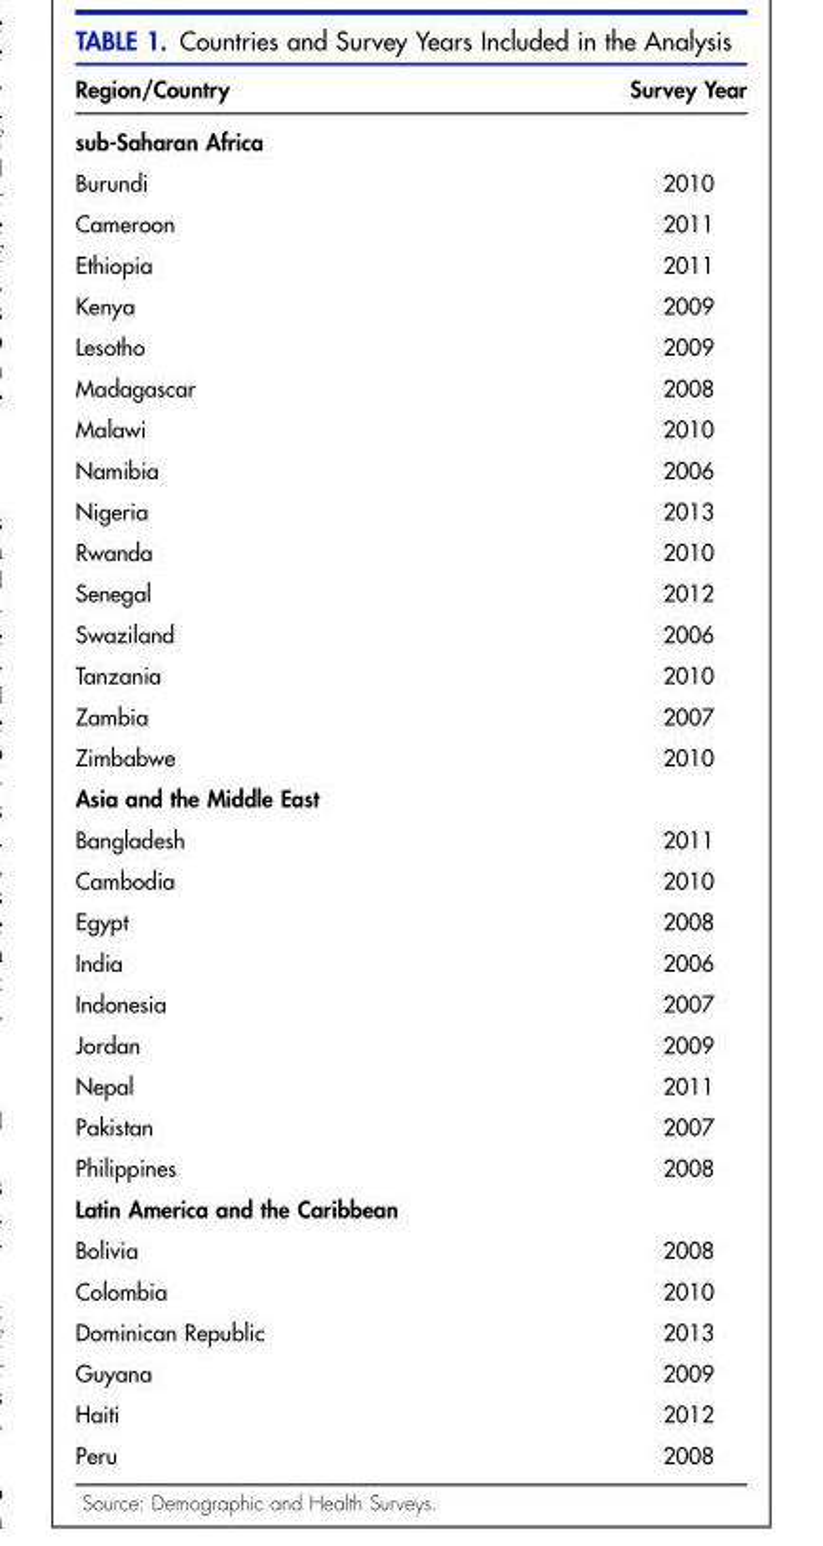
<table><thead><tr><td>Region/Country</td><td>Survey Year</td></tr></thead><tbody><tr><td colspan="2">sub-Saharan Africa</td></tr><tr><td>Burundi</td><td>2010</td></tr><tr><td>Cameroon</td><td>2011</td></tr><tr><td>Ethiopia</td><td>2011</td></tr><tr><td>Kenya</td><td>2009</td></tr><tr><td>Lesotho</td><td>2009</td></tr><tr><td>Madagascar</td><td>2008</td></tr><tr><td>Malawi</td><td>2010</td></tr><tr><td>Namibia</td><td>2006</td></tr><tr><td>Nigeria</td><td>2013</td></tr><tr><td>Rwanda</td><td>2010</td></tr><tr><td>Senegal</td><td>2012</td></tr><tr><td>Swaziland</td><td>2006</td></tr><tr><td>Tanzania</td><td>2010</td></tr><tr><td>Zambia</td><td>2007</td></tr><tr><td>Zimbabwe</td><td>2010</td></tr><tr><td colspan="2">Asia and the Middle East</td></tr><tr><td>Bangladesh</td><td>2011</td></tr><tr><td>Cambodia</td><td>2010</td></tr><tr><td>Egypt</td><td>2008</td></tr><tr><td>India</td><td>2006</td></tr><tr><td>Indonesia</td><td>2007</td></tr><tr><td>Jordan</td><td>2009</td></tr><tr><td>Nepal</td><td>2011</td></tr><tr><td>Pakistan</td><td>2007</td></tr><tr><td>Philippines</td><td>2008</td></tr><tr><td colspan="2">Latin America and the Caribbean</td></tr><tr><td>Bolivia</td><td>2008</td></tr><tr><td>Colombia</td><td>2010</td></tr><tr><td>Dominican Republic</td><td>2013</td></tr><tr><td>Guyana</td><td>2009</td></tr><tr><td>Haiti</td><td>2012</td></tr><tr><td>Peru</td><td>2008</td></tr></tbody></table>